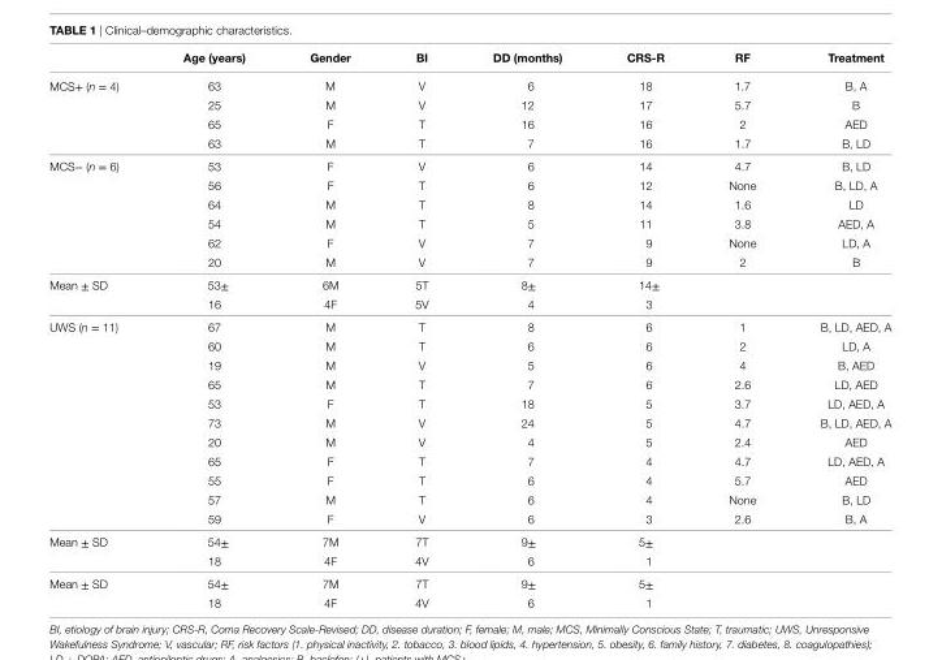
<table><thead><tr><td></td><td>age (years)</td><td>gender</td><td>bi</td><td>DD (months)</td><td>crs-r</td><td>rF</td><td>Treatment</td></tr></thead><tbody><tr><td rowspan="4">MCS+ (n = 4)</td><td>63</td><td>M</td><td>V</td><td>6</td><td>18</td><td>1.7</td><td>B, A</td></tr><tr><td>25</td><td>M</td><td>V</td><td>12</td><td>17</td><td>5.7</td><td>B</td></tr><tr><td>65</td><td>F</td><td>T</td><td>16</td><td>16</td><td>2</td><td>AED</td></tr><tr><td>63</td><td>M</td><td>T</td><td>7</td><td>16</td><td>1.7</td><td>B, LD</td></tr><tr><td rowspan="6">MCS− (n = 6)</td><td>53</td><td>F</td><td>V</td><td>6</td><td>14</td><td>4.7</td><td>B, LD</td></tr><tr><td>56</td><td>F</td><td>T</td><td>6</td><td>12</td><td>None</td><td>B, LD, A</td></tr><tr><td>64</td><td>M</td><td>T</td><td>8</td><td>14</td><td>1.6</td><td>LD</td></tr><tr><td>54</td><td>M</td><td>T</td><td>5</td><td>11</td><td>3.8</td><td>AED, A</td></tr><tr><td>62</td><td>F</td><td>V</td><td>7</td><td>9</td><td>None</td><td>LD, A</td></tr><tr><td>20</td><td>M</td><td>V</td><td>7</td><td>9</td><td>2</td><td>B</td></tr><tr><td rowspan="2">Mean ± SD</td><td>53±</td><td>6M</td><td>5T</td><td>8±</td><td>14±</td><td></td><td rowspan="2"></td></tr><tr><td>16</td><td>4F</td><td>5V</td><td>4</td><td>3</td><td></td></tr><tr><td rowspan="11">UWS (n = 11)</td><td>67</td><td>M</td><td>T</td><td>8</td><td>6</td><td>1</td><td>B, LD, AED, A</td></tr><tr><td>60</td><td>M</td><td>T</td><td>6</td><td>6</td><td>2</td><td>LD, A</td></tr><tr><td>19</td><td>M</td><td>V</td><td>5</td><td>6</td><td>4</td><td>B, AED</td></tr><tr><td>65</td><td>M</td><td>T</td><td>7</td><td>6</td><td>2.6</td><td>LD, AED</td></tr><tr><td>53</td><td>F</td><td>T</td><td>18</td><td>5</td><td>3.7</td><td>LD, AED, A</td></tr><tr><td>73</td><td>M</td><td>V</td><td>24</td><td>5</td><td>4.7</td><td>B, LD, AED, A</td></tr><tr><td>20</td><td>M</td><td>V</td><td>4</td><td>5</td><td>2.4</td><td>AED</td></tr><tr><td>65</td><td>F</td><td>T</td><td>7</td><td>4</td><td>4.7</td><td>LD, AED, A</td></tr><tr><td>55</td><td>F</td><td>T</td><td>6</td><td>4</td><td>5.7</td><td>AED</td></tr><tr><td>57</td><td>M</td><td>T</td><td>6</td><td>4</td><td>None</td><td>B, LD</td></tr><tr><td>59</td><td>F</td><td>V</td><td>6</td><td>3</td><td>2.6</td><td>B, A</td></tr><tr><td rowspan="2">Mean ± SD</td><td>54±</td><td>7M</td><td>7T</td><td>9±</td><td>5±</td><td></td><td></td></tr><tr><td>18</td><td>4F</td><td>4V</td><td>6</td><td>1</td><td></td><td></td></tr><tr><td rowspan="2">Mean ± SD</td><td>54±</td><td>7M</td><td>7T</td><td>9±</td><td>5±</td><td></td><td></td></tr><tr><td>18</td><td>4F</td><td>4V</td><td>6</td><td>1</td><td></td><td></td></tr></tbody></table>